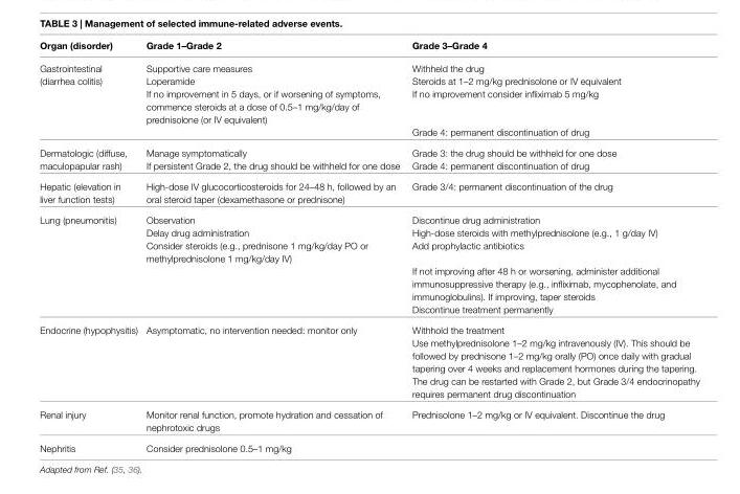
<table><thead><tr><td>Organ (disorder)</td><td>Grade 1–Grade 2</td><td>Grade 3–Grade 4</td></tr></thead><tbody><tr><td rowspan="4">Gastrointestinal (diarrhea colitis)</td><td>Supportive care measures</td><td>Withheld the drug</td></tr><tr><td>Loperamide</td><td>Steroids at 1–2 mg/kg prednisolone or IV equivalent</td></tr><tr><td>If no improvement in 5 days, or if worsening of symptoms, commence steroids at a dose of 0.5–1 mg/kg/day of prednisolone (or IV equivalent)</td><td>If no improvement consider infliximab 5 mg/kg</td></tr><tr><td></td><td>Grade 4: permanent discontinuation of drug</td></tr><tr><td rowspan="2">Dermatologic (diffuse, maculopapular rash)</td><td>Manage symptomatically</td><td>Grade 3: the drug should be withheld for one dose</td></tr><tr><td>If persistent Grade 2, the drug should be withheld for one dose</td><td>Grade 4: permanent discontinuation of drug</td></tr><tr><td>Hepatic (elevation in liver function tests)</td><td>High-dose IV glucocorticosteroids for 24–48 h, followed by an oral steroid taper (dexamethasone or prednisone)</td><td>Grade 3/4: permanent discontinuation of the drug</td></tr><tr><td rowspan="5">Lung (pneumonitis)</td><td>Observation</td><td>Discontinue drug administration</td></tr><tr><td>Delay drug administration</td><td>High-dose steroids with methylprednisolone (e.g., 1 g/day IV)</td></tr><tr><td>Consider steroids (e.g., prednisone 1 mg/kg/day PO or methylprednisolone 1 mg/kg/day IV)</td><td>Add prophylactic antibiotics</td></tr><tr><td></td><td>If not improving after 48 h or worsening, administer additional immunosuppressive therapy (e.g., infliximab, mycophenolate, and immunoglobulins). If improving, taper steroids</td></tr><tr><td></td><td>Discontinue treatment permanently</td></tr><tr><td rowspan="2">Endocrine (hypophysitis)</td><td>Asymptomatic, no intervention needed: monitor only</td><td>Withhold the treatment</td></tr><tr><td></td><td>Use methylprednisolone 1–2 mg/kg intravenously (IV). This should be followed by prednisone 1–2 mg/kg orally (PO) once daily with gradual tapering over 4 weeks and replacement hormones during the tapering. The drug can be restarted with Grade 2, but Grade 3/4 endocrinopathy requires permanent drug discontinuation</td></tr><tr><td>Renal injury</td><td>Monitor renal function, promote hydration and cessation of nephrotoxic drugs</td><td>Prednisolone 1–2 mg/kg or IV equivalent. Discontinue the drug</td></tr><tr><td>Nephritis</td><td>Consider prednisolone 0.5–1 mg/kg</td><td></td></tr></tbody></table>